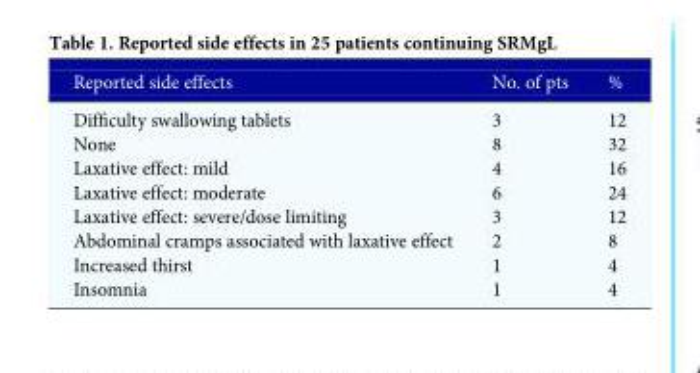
<table><thead><tr><td>Reported side effects</td><td>No. of pts</td><td>%</td></tr></thead><tbody><tr><td>Difficulty swallowing tablets</td><td>3</td><td>12</td></tr><tr><td>None</td><td>8</td><td>32</td></tr><tr><td>Laxative effect: mild</td><td>4</td><td>16</td></tr><tr><td>Laxative effect: moderate</td><td>6</td><td>24</td></tr><tr><td>Laxative effect: severe/dose limiting</td><td>3</td><td>12</td></tr><tr><td>Abdominal cramps associated with laxative effect</td><td>2</td><td>8</td></tr><tr><td>Increased thirst</td><td>1</td><td>4</td></tr><tr><td>Insomnia</td><td>1</td><td>4</td></tr></tbody></table>